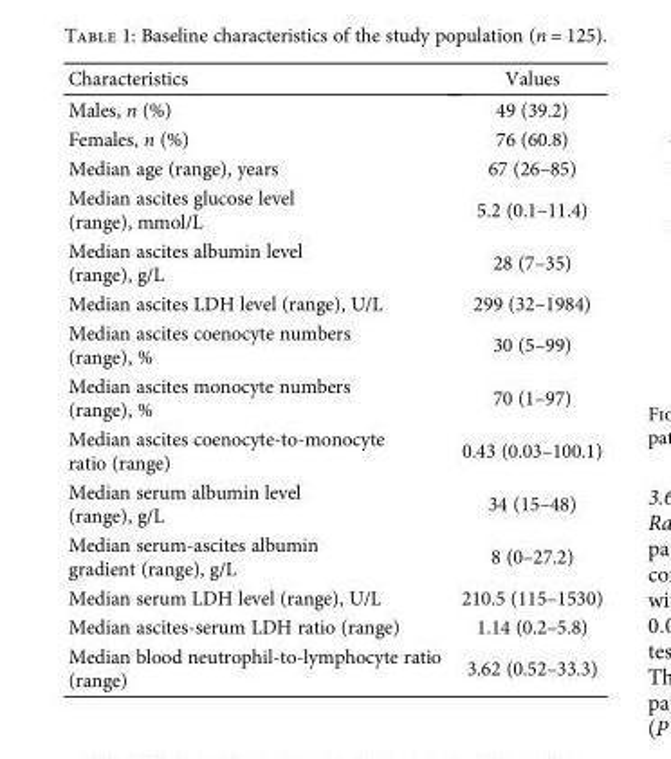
<table><thead><tr><td>Characteristics</td><td>Values</td></tr></thead><tbody><tr><td>Males, n (%)</td><td>49 (39.2)</td></tr><tr><td>Females, n (%)</td><td>76 (60.8)</td></tr><tr><td>Median age (range), years</td><td>67 (26–85)</td></tr><tr><td>Median ascites glucose level (range), mmol/L</td><td>5.2 (0.1–11.4)</td></tr><tr><td>Median ascites albumin level (range), g/L</td><td>28 (7–35)</td></tr><tr><td>Median ascites LDH level (range), U/L</td><td>299 (32–1984)</td></tr><tr><td>Median ascites coenocyte numbers (range), %</td><td>30 (5–99)</td></tr><tr><td>Median ascites monocyte numbers (range), %</td><td>70 (1–97)</td></tr><tr><td>Median ascites coenocyte-to-monocyte ratio (range)</td><td>0.43 (0.03–100.1)</td></tr><tr><td>Median serum albumin level (range), g/L</td><td>34 (15–48)</td></tr><tr><td>Median serum-ascites albumin gradient (range), g/L</td><td>8 (0–27.2)</td></tr><tr><td>Median serum LDH level (range), U/L</td><td>210.5 (115–1530)</td></tr><tr><td>Median ascites-serum LDH ratio (range)</td><td>1.14 (0.2–5.8)</td></tr><tr><td>Median blood neutrophil-to-lymphocyte ratio (range)</td><td>3.62 (0.52–33.3)</td></tr></tbody></table>